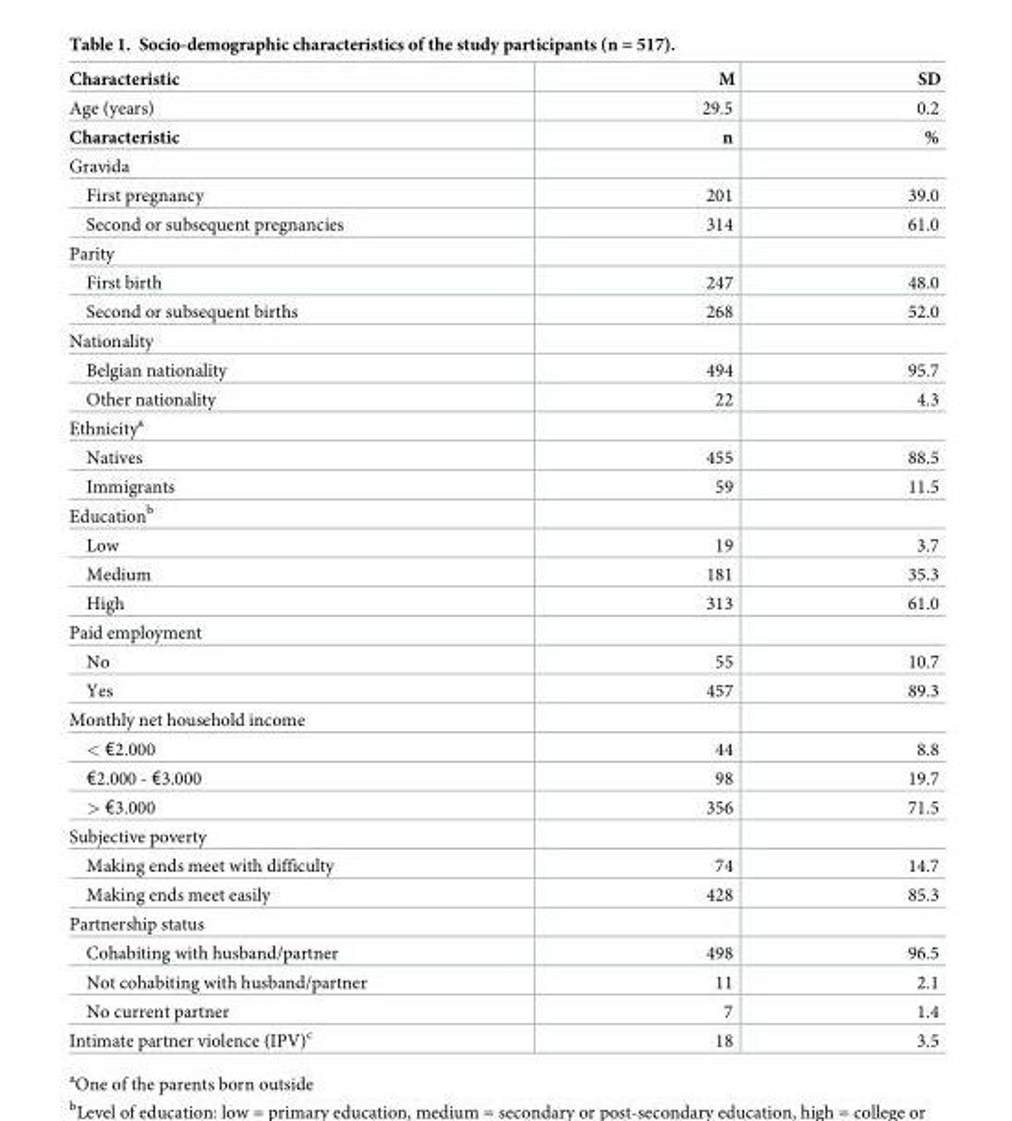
<table><thead><tr><td>Characteristic</td><td>M</td><td>SD</td></tr></thead><tbody><tr><td>Age (years)</td><td>29.5</td><td>0.2</td></tr><tr><td>Characteristic</td><td>n</td><td>%</td></tr><tr><td colspan="3">Gravida</td></tr><tr><td>First pregnancy</td><td>201</td><td>39.0</td></tr><tr><td>Second or subsequent pregnancies</td><td>314</td><td>61.0</td></tr><tr><td colspan="3">Parity</td></tr><tr><td>First birth</td><td>247</td><td>48.0</td></tr><tr><td>Second or subsequent births</td><td>268</td><td>52.0</td></tr><tr><td colspan="3">Nationality</td></tr><tr><td>Belgian nationality</td><td>494</td><td>95.7</td></tr><tr><td>Other nationality</td><td>22</td><td>4.3</td></tr><tr><td colspan="3">Ethnicity<sup>a</sup></td></tr><tr><td>Natives</td><td>455</td><td>88.5</td></tr><tr><td>Immigrants</td><td>59</td><td>11.5</td></tr><tr><td colspan="3">Education<sup>b</sup></td></tr><tr><td>Low</td><td>19</td><td>3.7</td></tr><tr><td>Medium</td><td>181</td><td>35.3</td></tr><tr><td>High</td><td>313</td><td>61.0</td></tr><tr><td colspan="3">Paid employment</td></tr><tr><td>No</td><td>55</td><td>10.7</td></tr><tr><td>Yes</td><td>457</td><td>89.3</td></tr><tr><td colspan="3">Monthly net household income</td></tr><tr><td>&lt; €2.000</td><td>44</td><td>8.8</td></tr><tr><td>€2.000 - €3.000</td><td>98</td><td>19.7</td></tr><tr><td>&gt; €3.000</td><td>356</td><td>71.5</td></tr><tr><td colspan="3">Subjective poverty</td></tr><tr><td>Making ends meet with difficulty</td><td>74</td><td>14.7</td></tr><tr><td>Making ends meet easily</td><td>428</td><td>85.3</td></tr><tr><td colspan="3">Partnership status</td></tr><tr><td>Cohabiting with husband/partner</td><td>498</td><td>96.5</td></tr><tr><td>Not cohabiting with husband/partner</td><td>11</td><td>2.1</td></tr><tr><td>No current partner</td><td>7</td><td>1.4</td></tr><tr><td>Intimate partner violence (IPV)<sup>c</sup></td><td>18</td><td>3.5</td></tr></tbody></table>